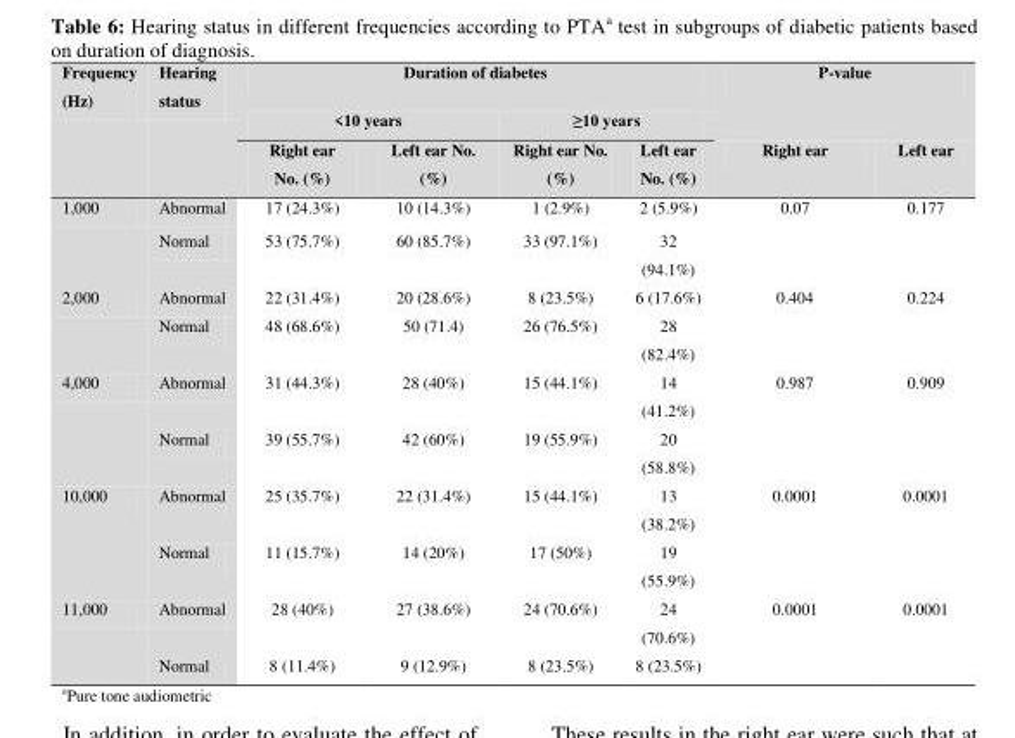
<table><thead><tr><td rowspan="3">Frequency (Hz)</td><td rowspan="3">Hearing status</td><td colspan="4">Duration of diabetes</td><td rowspan="2" colspan="2">P-value</td></tr><tr><td colspan="2">&lt;10 years</td><td colspan="2">≥10 years</td></tr><tr><td>Right ear No. (%)</td><td>Left ear No. (%)</td><td>Right ear No. (%)</td><td>Left ear No. (%)</td><td>Right ear</td><td>Left ear</td></tr></thead><tbody><tr><td rowspan="2">1,000</td><td>Abnormal</td><td>17 (24.3%)</td><td>10 (14.3%)</td><td>1 (2.9%)</td><td>2 (5.9%)</td><td rowspan="2">0.07</td><td rowspan="2">0.177</td></tr><tr><td>Normal</td><td>53 (75.7%)</td><td>60 (85.7%)</td><td>33 (97.1%)</td><td>32 (94.1%)</td></tr><tr><td rowspan="2">2,000</td><td>Abnormal</td><td>22 (31.4%)</td><td>20 (28.6%)</td><td>8 (23.5%)</td><td>6 (17.6%)</td><td rowspan="2">0.404</td><td rowspan="2">0.224</td></tr><tr><td>Normal</td><td>48 (68.6%)</td><td>50 (71.4)</td><td>26 (76.5%)</td><td>28 (82.4%)</td></tr><tr><td rowspan="2">4,000</td><td>Abnormal</td><td>31 (44.3%)</td><td>28 (40%)</td><td>15 (44.1%)</td><td>14 (41.2%)</td><td rowspan="2">0.987</td><td rowspan="2">0.909</td></tr><tr><td>Normal</td><td>39 (55.7%)</td><td>42 (60%)</td><td>19 (55.9%)</td><td>20 (58.8%)</td></tr><tr><td rowspan="2">10,000</td><td>Abnormal</td><td>25 (35.7%)</td><td>22 (31.4%)</td><td>15 (44.1%)</td><td>13 (38.2%)</td><td rowspan="2">0.0001</td><td rowspan="2">0.0001</td></tr><tr><td>Normal</td><td>11 (15.7%)</td><td>14 (20%)</td><td>17 (50%)</td><td>19 (55.9%)</td></tr><tr><td rowspan="2">11,000</td><td>Abnormal</td><td>28 (40%)</td><td>27 (38.6%)</td><td>24 (70.6%)</td><td>24 (70.6%)</td><td rowspan="2">0.0001</td><td rowspan="2">0.0001</td></tr><tr><td>Normal</td><td>8 (11.4%)</td><td>9 (12.9%)</td><td>8 (23.5%)</td><td>8 (23.5%)</td></tr></tbody></table>